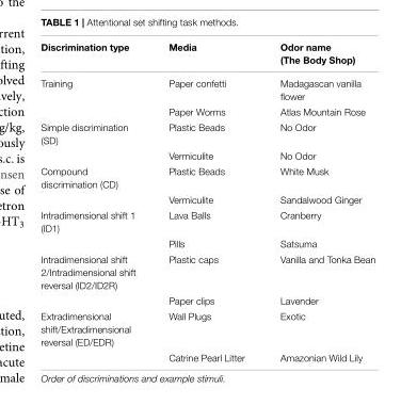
<table><thead><tr><td>Discrimination type</td><td>Media</td><td>Odor name (The Body Shop)</td></tr></thead><tbody><tr><td rowspan="2">Training</td><td>Paper confetti</td><td>Madagascan vanilla flower</td></tr><tr><td>Paper Worms</td><td>Atlas Mountain Rose</td></tr><tr><td rowspan="2">Simple discrimination (SD)</td><td>Plastic Beads</td><td>No Odor</td></tr><tr><td>Vermiculite</td><td>No Odor</td></tr><tr><td rowspan="2">Compound discrimination (CD)</td><td>Plastic Beads</td><td>White Musk</td></tr><tr><td>Vermiculite</td><td>Sandalwood Ginger</td></tr><tr><td rowspan="2">Intradimensional shift 1 (ID1)</td><td>Lava Balls</td><td>Cranberry</td></tr><tr><td>Pills</td><td>Satsuma</td></tr><tr><td rowspan="2">Intradimensional shift 2/Intradimensional shift reversal (ID2/ID2R)</td><td>Plastic caps</td><td>Vanilla and Tonka Bean</td></tr><tr><td>Paper clips</td><td>Lavender</td></tr><tr><td rowspan="2">Extradimensional shift/Extradimensional reversal (ED/EDR)</td><td>Wall Plugs</td><td>Exotic</td></tr><tr><td>Catrine Pearl Litter</td><td>Amazonian Wild Lily</td></tr></tbody></table>